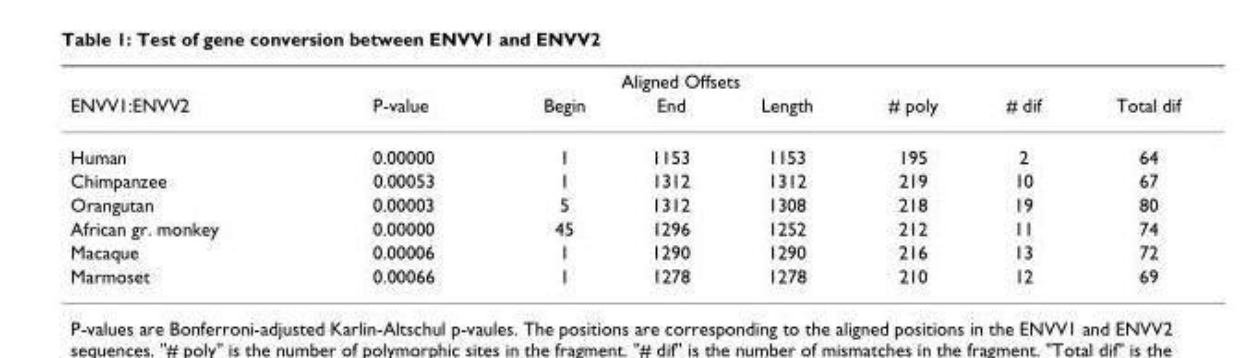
<table><thead><tr><td rowspan="2">ENVV1:ENVV2</td><td rowspan="2">P-value</td><td colspan="3">Aligned Offsets</td><td rowspan="2"># poly</td><td rowspan="2"># dif</td><td rowspan="2">Total dif</td></tr><tr><td>Begin</td><td>End</td><td>Length</td></tr></thead><tbody><tr><td>Human</td><td>0.00000</td><td>1</td><td>1153</td><td>1153</td><td>195</td><td>2</td><td>64</td></tr><tr><td>Chimpanzee</td><td>0.00053</td><td>1</td><td>1312</td><td>1312</td><td>219</td><td>10</td><td>67</td></tr><tr><td>Orangutan</td><td>0.00003</td><td>5</td><td>1312</td><td>1308</td><td>218</td><td>19</td><td>80</td></tr><tr><td>African gr. monkey</td><td>0.00000</td><td>45</td><td>1296</td><td>1252</td><td>212</td><td>11</td><td>74</td></tr><tr><td>Macaque</td><td>0.00006</td><td>1</td><td>1290</td><td>1290</td><td>216</td><td>13</td><td>72</td></tr><tr><td>Marmoset</td><td>0.00066</td><td>1</td><td>1278</td><td>1278</td><td>210</td><td>12</td><td>69</td></tr></tbody></table>